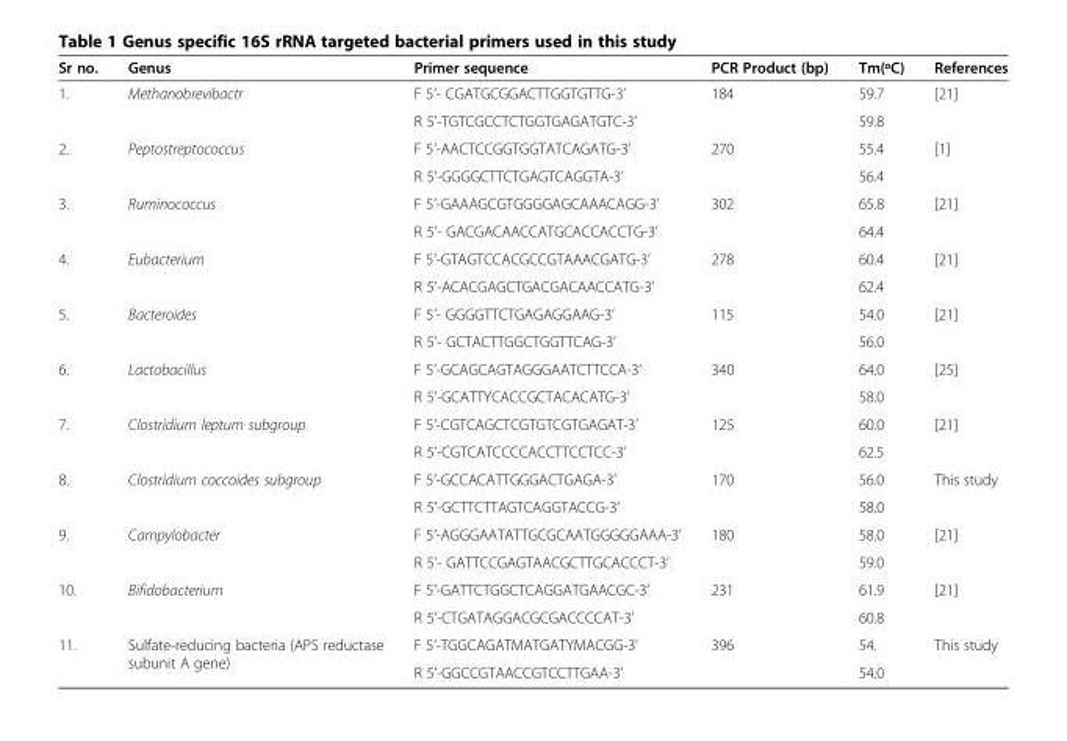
<table><thead><tr><td>Sr no.</td><td>Genus</td><td>Primer sequence</td><td>PCR Product (bp)</td><td>Tm(ºC)</td><td>References</td></tr></thead><tbody><tr><td rowspan="2">1.</td><td rowspan="2">Methanobrevibactr</td><td>F 5’- CGATGCGGACTTGGTGTTG-3’</td><td>184</td><td>59.7</td><td>[21]</td></tr><tr><td>R 5’-TGTCGCCTCTGGTGAGATGTC-3’</td><td></td><td>59.8</td><td></td></tr><tr><td rowspan="2">2.</td><td rowspan="2">Peptostreptococcus</td><td>F 5’-AACTCCGGTGGTATCAGATG-3’</td><td>270</td><td>55.4</td><td>[1]</td></tr><tr><td>R 5’-GGGGCTTCTGAGTCAGGTA-3’</td><td></td><td>56.4</td><td></td></tr><tr><td rowspan="2">3.</td><td rowspan="2">Ruminococcus</td><td>F 5’-GAAAGCGTGGGGAGCAAACAGG-3’</td><td>302</td><td>65.8</td><td>[21]</td></tr><tr><td>R 5’- GACGACAACCATGCACCACCTG-3’</td><td></td><td>64.4</td><td></td></tr><tr><td rowspan="2">4.</td><td rowspan="2">Eubacterium</td><td>F 5’-GTAGTCCACGCCGTAAACGATG-3’</td><td>278</td><td>60.4</td><td>[21]</td></tr><tr><td>R 5’-ACACGAGCTGACGACAACCATG-3’</td><td></td><td>62.4</td><td></td></tr><tr><td rowspan="2">5.</td><td rowspan="2">Bacteroides</td><td>F 5’- GGGGTTCTGAGAGGAAG-3’</td><td>115</td><td>54.0</td><td>[21]</td></tr><tr><td>R 5’- GCTACTTGGCTGGTTCAG-3’</td><td></td><td>56.0</td><td></td></tr><tr><td rowspan="2">6.</td><td rowspan="2">Lactobacillus</td><td>F 5’-GCAGCAGTAGGGAATCTTCCA-3’</td><td>340</td><td>64.0</td><td>[25]</td></tr><tr><td>R 5’-GCATTYCACCGCTACACATG-3’</td><td></td><td>58.0</td><td></td></tr><tr><td rowspan="2">7.</td><td rowspan="2">Clostridium leptum subgroup</td><td>F 5’-CGTCAGCTCGTGTCGTGAGAT-3’</td><td>125</td><td>60.0</td><td>[21]</td></tr><tr><td>R 5’-CGTCATCCCCACCTTCCTCC-3’</td><td></td><td>62.5</td><td></td></tr><tr><td rowspan="2">8.</td><td rowspan="2">Clostridium coccoides subgroup</td><td>F 5’-GCCACATTGGGACTGAGA-3’</td><td>170</td><td>56.0</td><td>This study</td></tr><tr><td>R 5’-GCTTCTTAGTCAGGTACCG-3’</td><td></td><td>58.0</td><td></td></tr><tr><td rowspan="2">9.</td><td rowspan="2">Campylobacter</td><td>F 5’-AGGGAATATTGCGCAATGGGGGAAA-3’</td><td>180</td><td>58.0</td><td>[21]</td></tr><tr><td>R 5’- GATTCCGAGTAACGCTTGCACCCT-3’</td><td></td><td>59.0</td><td></td></tr><tr><td rowspan="2">10.</td><td rowspan="2">Bifidobacterium</td><td>F 5’-GATTCTGGCTCAGGATGAACGC-3’</td><td>231</td><td>61.9</td><td>[21]</td></tr><tr><td>R 5’-CTGATAGGACGCGACCCCAT-3’</td><td></td><td>60.8</td><td></td></tr><tr><td rowspan="2">11.</td><td rowspan="2">Sulfate-reducing bacteria (APS reductase subunit A gene)</td><td>F 5’-TGGCAGATMATGATYMACGG-3’</td><td>396</td><td>54.</td><td>This study</td></tr><tr><td>R 5’-GGCCGTAACCGTCCTTGAA-3’</td><td></td><td>54.0</td><td></td></tr></tbody></table>